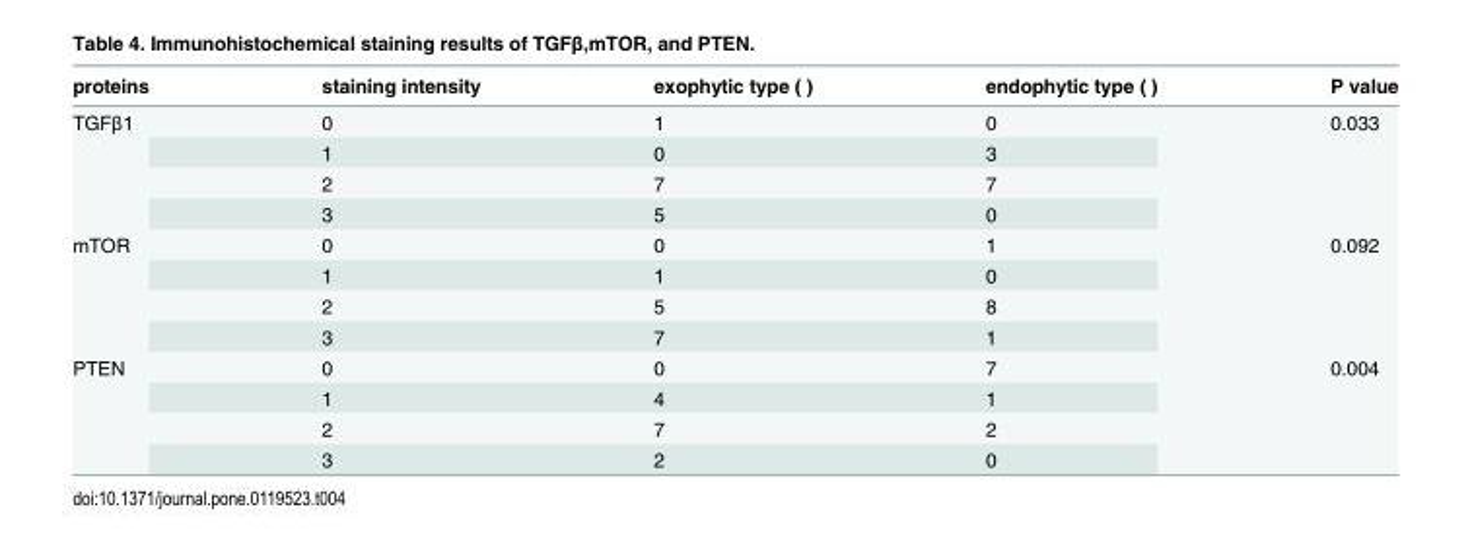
<table><thead><tr><td>proteins</td><td>staining intensity</td><td>exophytic type (Ⅱ)</td><td>endophytic type (Ⅰ)</td><td>P value</td></tr></thead><tbody><tr><td rowspan="4">TGFβ1</td><td>0</td><td>1</td><td>0</td><td rowspan="4">0.033</td></tr><tr><td>1</td><td>0</td><td>3</td></tr><tr><td>2</td><td>7</td><td>7</td></tr><tr><td>3</td><td>5</td><td>0</td></tr><tr><td rowspan="4">mTOR</td><td>0</td><td>0</td><td>1</td><td rowspan="4">0.092</td></tr><tr><td>1</td><td>1</td><td>0</td></tr><tr><td>2</td><td>5</td><td>8</td></tr><tr><td>3</td><td>7</td><td>1</td></tr><tr><td rowspan="4">PTEN</td><td>0</td><td>0</td><td>7</td><td rowspan="4">0.004</td></tr><tr><td>1</td><td>4</td><td>1</td></tr><tr><td>2</td><td>7</td><td>2</td></tr><tr><td>3</td><td>2</td><td>0</td></tr></tbody></table>